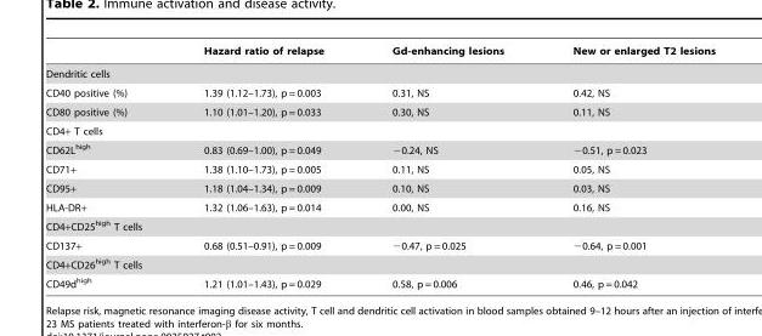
<table><thead><tr><td></td><td>Hazard ratio of relapse</td><td>Gd-enhancing lesions</td><td>New or enlarged T2 lesions</td></tr></thead><tbody><tr><td colspan="4">Dendritic cells</td></tr><tr><td>CD40 positive (%)</td><td>1.39 (1.12–1.73), p = 0.003</td><td>0.31, NS</td><td>0.42, NS</td></tr><tr><td>CD80 positive (%)</td><td>1.10 (1.01–1.20), p = 0.033</td><td>0.30, NS</td><td>0.11, NS</td></tr><tr><td colspan="4">CD4+ T cells</td></tr><tr><td>CD62L<sup>high</sup></td><td>0.83 (0.69–1.00), p = 0.049</td><td>−0.24, NS</td><td>20.51, p = 0.023</td></tr><tr><td>CD71+</td><td>1.38 (1.10–1.73), p = 0.005</td><td>0.11, NS</td><td>0.05, NS</td></tr><tr><td>CD95+</td><td>1.18 (1.04–1.34), p = 0.009</td><td>0.10, NS</td><td>0.03, NS</td></tr><tr><td>HLA-DR+</td><td>1.32 (1.06–1.63), p = 0.014</td><td>0.00, NS</td><td>0.16, NS</td></tr><tr><td colspan="4">CD4+CD25<sup>high</sup> T cells</td></tr><tr><td>CD137+</td><td>0.68 (0.51–0.91), p = 0.009</td><td>−0.47, p = 0.025</td><td>−0.64, p = 0.001</td></tr><tr><td colspan="4">CD4+CD26<sup>high</sup> T cells</td></tr><tr><td>CD49d<sup>high</sup></td><td>1.21 (1.01–1.43), p = 0.029</td><td>0.58, p = 0.006</td><td>0.46, p = 0.042</td></tr></tbody></table>